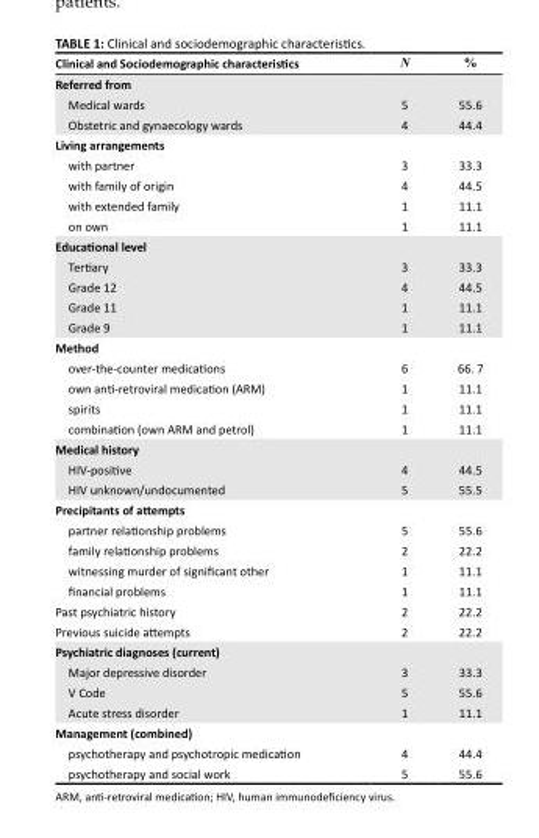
<table><thead><tr><td>Clinical and Sociodemographic characteristics</td><td>N</td><td>%</td></tr></thead><tbody><tr><td colspan="3">Referred from</td></tr><tr><td>Medical wards</td><td>5</td><td>55.6</td></tr><tr><td>Obstetric and gynaecology wards</td><td>4</td><td>44.4</td></tr><tr><td colspan="3">Living arrangements</td></tr><tr><td>with partner</td><td>3</td><td>33.3</td></tr><tr><td>with family of origin</td><td>4</td><td>44.5</td></tr><tr><td>with extended family</td><td>1</td><td>11.1</td></tr><tr><td>on own</td><td>1</td><td>11.1</td></tr><tr><td colspan="3">Educational level</td></tr><tr><td>Tertiary</td><td>3</td><td>33.3</td></tr><tr><td>Grade 12</td><td>4</td><td>44.5</td></tr><tr><td>Grade 11</td><td>1</td><td>11.1</td></tr><tr><td>Grade 9</td><td>1</td><td>11.1</td></tr><tr><td colspan="3">Method</td></tr><tr><td>over-the-counter medications</td><td>6</td><td>66. 7</td></tr><tr><td>own anti-retroviral medication (ARM)</td><td>1</td><td>11.1</td></tr><tr><td>spirits</td><td>1</td><td>11.1</td></tr><tr><td>combination (own ARM and petrol)</td><td>1</td><td>11.1</td></tr><tr><td colspan="3">Medical history</td></tr><tr><td>HIV-positive</td><td>4</td><td>44.5</td></tr><tr><td>HIV unknown/undocumented</td><td>5</td><td>55.5</td></tr><tr><td colspan="3">Precipitants of attempts</td></tr><tr><td>partner relationship problems</td><td>5</td><td>55.6</td></tr><tr><td>family relationship problems</td><td>2</td><td>22.2</td></tr><tr><td>witnessing murder of significant other</td><td>1</td><td>11.1</td></tr><tr><td>financial problems</td><td>1</td><td>11.1</td></tr><tr><td>Past psychiatric history</td><td>2</td><td>22.2</td></tr><tr><td>Previous suicide attempts</td><td>2</td><td>22.2</td></tr><tr><td colspan="3">Psychiatric diagnoses (current)</td></tr><tr><td>Major depressive disorder</td><td>3</td><td>33.3</td></tr><tr><td>V Code</td><td>5</td><td>55.6</td></tr><tr><td>Acute stress disorder</td><td>1</td><td>11.1</td></tr><tr><td colspan="3">Management (combined)</td></tr><tr><td>psychotherapy and psychotropic medication</td><td>4</td><td>44.4</td></tr><tr><td>psychotherapy and social work</td><td>5</td><td>55.6</td></tr></tbody></table>